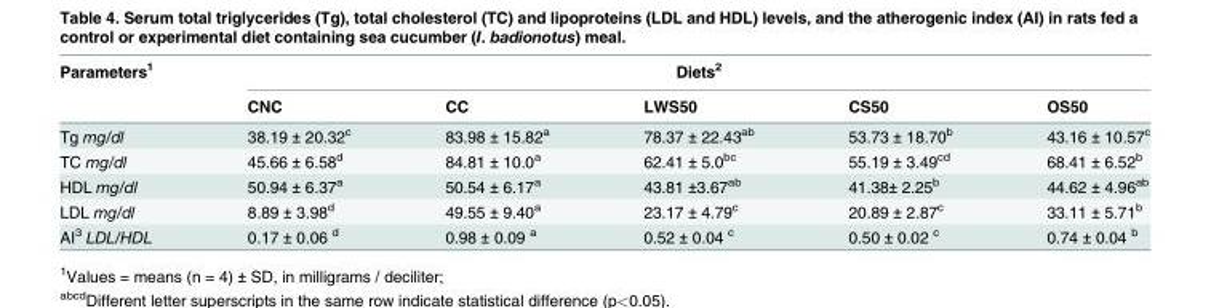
<table><thead><tr><td rowspan="2">Parameters<sup>1</sup></td><td colspan="5">Diets<sup>2</sup></td></tr><tr><td>CNC</td><td>CC</td><td>LWS50</td><td>CS50</td><td>OS50</td></tr></thead><tbody><tr><td>Tg mg/dl</td><td>38.19 ± 20.32<sup>c</sup></td><td>83.98 ± 15.82<sup>a</sup></td><td>78.37 ± 22.43<sup>ab</sup></td><td>53.73 ± 18.70<sup>b</sup></td><td>43.16 ± 10.57<sup>c</sup></td></tr><tr><td>TC mg/dl</td><td>45.66 ± 6.58<sup>d</sup></td><td>84.81 ± 10.0<sup>a</sup></td><td>62.41 ± 5.0<sup>bc</sup></td><td>55.19 ± 3.49<sup>cd</sup></td><td>68.41 ± 6.52<sup>b</sup></td></tr><tr><td>HDL mg/dl</td><td>50.94 ± 6.37<sup>a</sup></td><td>50.54 ± 6.17<sup>a</sup></td><td>43.81 ±3.67<sup>ab</sup></td><td>41.38± 2.25<sup>b</sup></td><td>44.62 ± 4.96<sup>ab</sup></td></tr><tr><td>LDL mg/dl</td><td>8.89 ± 3.98<sup>d</sup></td><td>49.55 ± 9.40<sup>a</sup></td><td>23.17 ± 4.79<sup>c</sup></td><td>20.89 ± 2.87<sup>c</sup></td><td>33.11 ± 5.71<sup>b</sup></td></tr><tr><td>AI<sup>3</sup> LDL/HDL</td><td>0.17 ± 0.06 <sup>d</sup></td><td>0.98 ± 0.09 <sup>a</sup></td><td>0.52 ± 0.04 <sup>c</sup></td><td>0.50 ± 0.02 <sup>c</sup></td><td>0.74 ± 0.04 <sup>b</sup></td></tr></tbody></table>